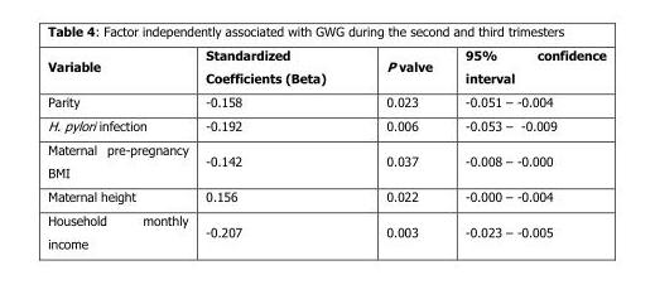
<table><thead><tr><td>Variable</td><td>Standardized Coefficients (Beta)</td><td>P valve</td><td>95% confidence interval</td></tr></thead><tbody><tr><td>Parity</td><td>-0.158</td><td>0.023</td><td>-0.051 – -0.004</td></tr><tr><td>H. pylori infection</td><td>-0.192</td><td>0.006</td><td>-0.053 – -0.009</td></tr><tr><td>Maternal pre-pregnancy BMI</td><td>-0.142</td><td>0.037</td><td>-0.008 – -0.000</td></tr><tr><td>Maternal height</td><td>0.156</td><td>0.022</td><td>-0.000 – -0.004</td></tr><tr><td>Household monthly income</td><td>-0.207</td><td>0.003</td><td>-0.023 – -0.005</td></tr></tbody></table>